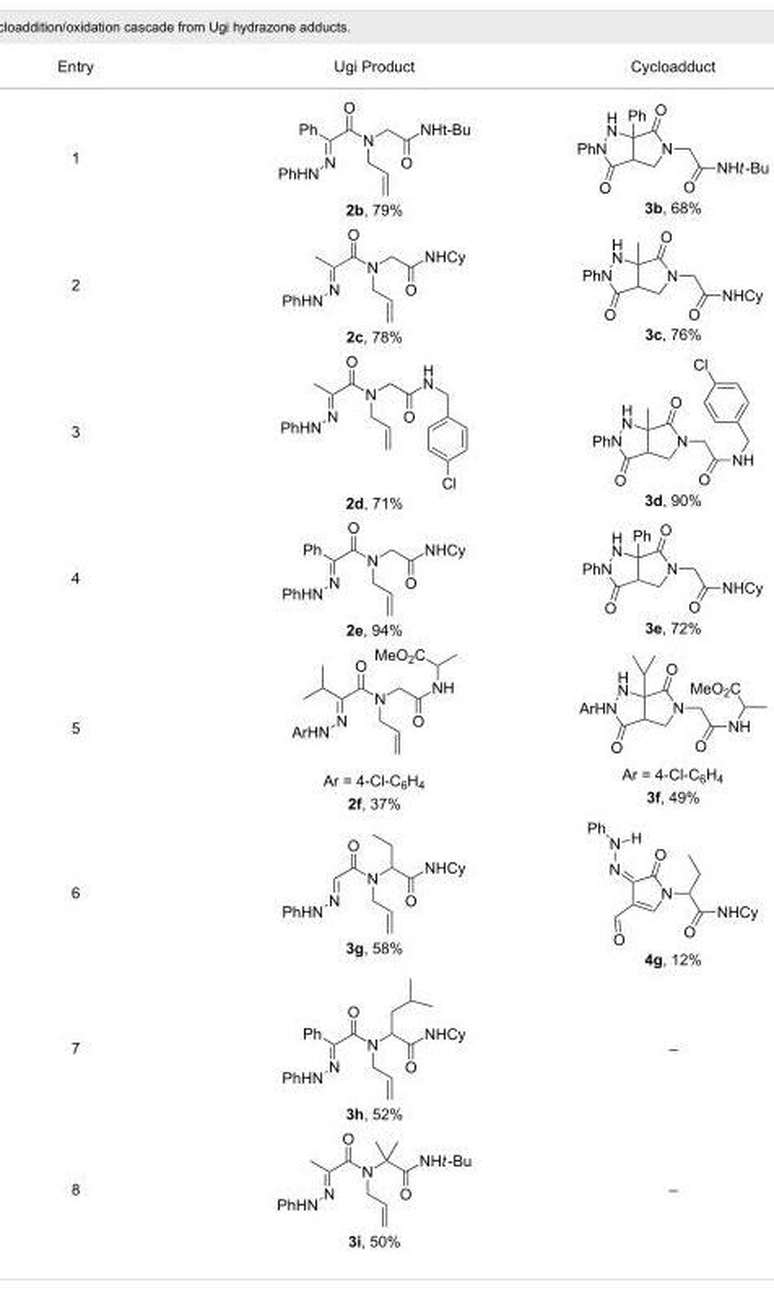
<table><tbody><tr><td>Entry</td><td>Ugi Product</td><td>Cycloadduct</td></tr><tr><td>1</td><td>2b, 79%</td><td>3b, 68%</td></tr><tr><td>2</td><td>2c, 78%</td><td>3c, 76%</td></tr><tr><td>3</td><td>2d, 71%</td><td>3d, 90%</td></tr><tr><td>4</td><td>2e, 94%</td><td>3e, 72%</td></tr><tr><td>5</td><td>2f, 37%</td><td>3f, 49%</td></tr><tr><td>6</td><td>3g, 58%</td><td>4g, 12%</td></tr><tr><td>7</td><td>3h, 52%</td><td>–</td></tr><tr><td>8</td><td>3i, 50%</td><td>–</td></tr></tbody></table>